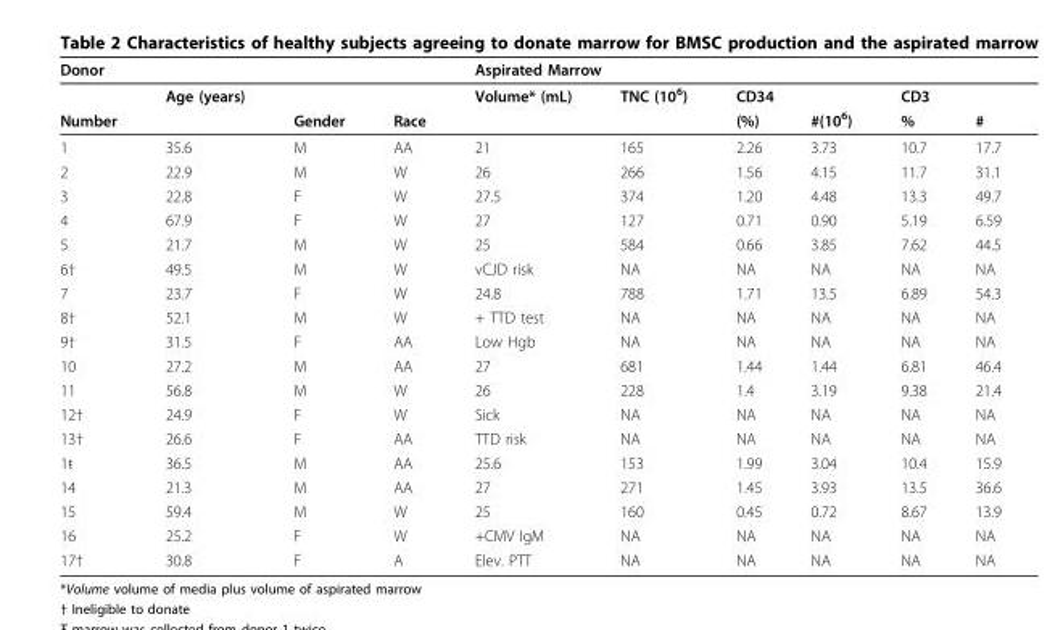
<table><thead><tr><td colspan="4">Donor</td><td colspan="6">Aspirated Marrow</td></tr><tr><td rowspan="2">Number</td><td rowspan="2">Age (years)</td><td rowspan="2">Gender</td><td rowspan="2">Race</td><td rowspan="2">Volume* (mL)</td><td rowspan="2">TNC (10<sup>6</sup>)</td><td colspan="2">CD34</td><td colspan="2">CD3</td></tr><tr><td>(%)</td><td>#(10<sup>6</sup>)</td><td>%</td><td>#</td></tr></thead><tbody><tr><td>1</td><td>35.6</td><td>M</td><td>AA</td><td>21</td><td>165</td><td>2.26</td><td>3.73</td><td>10.7</td><td>17.7</td></tr><tr><td>2</td><td>22.9</td><td>M</td><td>W</td><td>26</td><td>266</td><td>1.56</td><td>4.15</td><td>11.7</td><td>31.1</td></tr><tr><td>3</td><td>22.8</td><td>F</td><td>W</td><td>27.5</td><td>374</td><td>1.20</td><td>4.48</td><td>13.3</td><td>49.7</td></tr><tr><td>4</td><td>67.9</td><td>F</td><td>W</td><td>27</td><td>127</td><td>0.71</td><td>0.90</td><td>5.19</td><td>6.59</td></tr><tr><td>5</td><td>21.7</td><td>M</td><td>W</td><td>25</td><td>584</td><td>0.66</td><td>3.85</td><td>7.62</td><td>44.5</td></tr><tr><td>6†</td><td>49.5</td><td>M</td><td>W</td><td>vCJD risk</td><td>NA</td><td>NA</td><td>NA</td><td>NA</td><td>NA</td></tr><tr><td>7</td><td>23.7</td><td>F</td><td>W</td><td>24.8</td><td>788</td><td>1.71</td><td>13.5</td><td>6.89</td><td>54.3</td></tr><tr><td>8†</td><td>52.1</td><td>M</td><td>W</td><td>+ TTD test</td><td>NA</td><td>NA</td><td>NA</td><td>NA</td><td>NA</td></tr><tr><td>9†</td><td>31.5</td><td>F</td><td>AA</td><td>Low Hgb</td><td>NA</td><td>NA</td><td>NA</td><td>NA</td><td>NA</td></tr><tr><td>10</td><td>27.2</td><td>M</td><td>AA</td><td>27</td><td>681</td><td>1.44</td><td>1.44</td><td>6.81</td><td>46.4</td></tr><tr><td>11</td><td>56.8</td><td>M</td><td>W</td><td>26</td><td>228</td><td>1.4</td><td>3.19</td><td>9.38</td><td>21.4</td></tr><tr><td>12†</td><td>24.9</td><td>F</td><td>W</td><td>Sick</td><td>NA</td><td>NA</td><td>NA</td><td>NA</td><td>NA</td></tr><tr><td>13†</td><td>26.6</td><td>F</td><td>AA</td><td>TTD risk</td><td>NA</td><td>NA</td><td>NA</td><td>NA</td><td>NA</td></tr><tr><td>1ŧ</td><td>36.5</td><td>M</td><td>AA</td><td>25.6</td><td>153</td><td>1.99</td><td>3.04</td><td>10.4</td><td>15.9</td></tr><tr><td>14</td><td>21.3</td><td>M</td><td>AA</td><td>27</td><td>271</td><td>1.45</td><td>3.93</td><td>13.5</td><td>36.6</td></tr><tr><td>15</td><td>59.4</td><td>M</td><td>W</td><td>25</td><td>160</td><td>0.45</td><td>0.72</td><td>8.67</td><td>13.9</td></tr><tr><td>16</td><td>25.2</td><td>F</td><td>W</td><td>+CMV IgM</td><td>NA</td><td>NA</td><td>NA</td><td>NA</td><td>NA</td></tr><tr><td>17†</td><td>30.8</td><td>F</td><td>A</td><td>Elev. PTT</td><td>NA</td><td>NA</td><td>NA</td><td>NA</td><td>NA</td></tr></tbody></table>